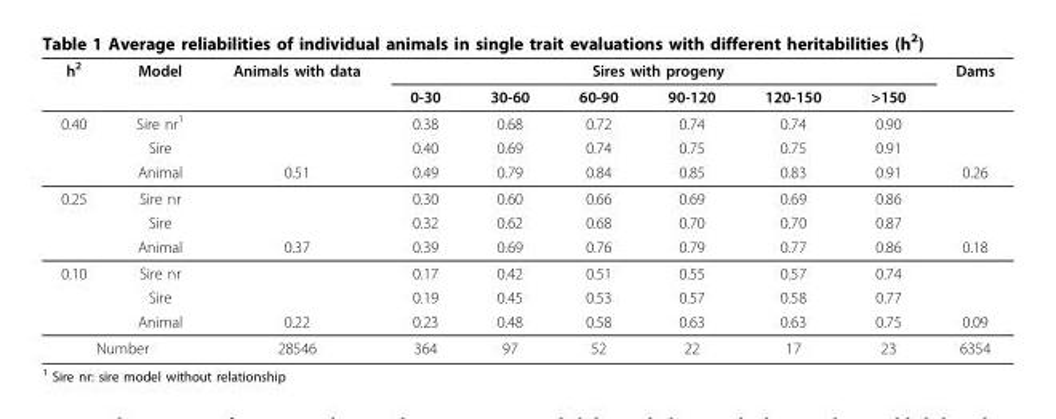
<table><thead><tr><td rowspan="2">h<sup>2</sup></td><td rowspan="2">Model</td><td rowspan="2">Animals with data</td><td colspan="6">Sires with progeny</td><td rowspan="2">Dams</td></tr><tr><td>0-30</td><td>30-60</td><td>60-90</td><td>90-120</td><td>120-150</td><td>&gt;150</td></tr></thead><tbody><tr><td rowspan="3">0.40</td><td>Sire nr<sup>1</sup></td><td></td><td>0.38</td><td>0.68</td><td>0.72</td><td>0.74</td><td>0.74</td><td>0.90</td><td></td></tr><tr><td>Sire</td><td></td><td>0.40</td><td>0.69</td><td>0.74</td><td>0.75</td><td>0.75</td><td>0.91</td><td></td></tr><tr><td>Animal</td><td>0.51</td><td>0.49</td><td>0.79</td><td>0.84</td><td>0.85</td><td>0.83</td><td>0.91</td><td>0.26</td></tr><tr><td rowspan="3">0.25</td><td>Sire nr</td><td></td><td>0.30</td><td>0.60</td><td>0.66</td><td>0.69</td><td>0.69</td><td>0.86</td><td></td></tr><tr><td>Sire</td><td></td><td>0.32</td><td>0.62</td><td>0.68</td><td>0.70</td><td>0.70</td><td>0.87</td><td></td></tr><tr><td>Animal</td><td>0.37</td><td>0.39</td><td>0.69</td><td>0.76</td><td>0.79</td><td>0.77</td><td>0.86</td><td>0.18</td></tr><tr><td rowspan="3">0.10</td><td>Sire nr</td><td></td><td>0.17</td><td>0.42</td><td>0.51</td><td>0.55</td><td>0.57</td><td>0.74</td><td></td></tr><tr><td>Sire</td><td></td><td>0.19</td><td>0.45</td><td>0.53</td><td>0.57</td><td>0.58</td><td>0.77</td><td></td></tr><tr><td>Animal</td><td>0.22</td><td>0.23</td><td>0.48</td><td>0.58</td><td>0.63</td><td>0.63</td><td>0.75</td><td>0.09</td></tr><tr><td colspan="2">Number</td><td>28546</td><td>364</td><td>97</td><td>52</td><td>22</td><td>17</td><td>23</td><td>6354</td></tr></tbody></table>